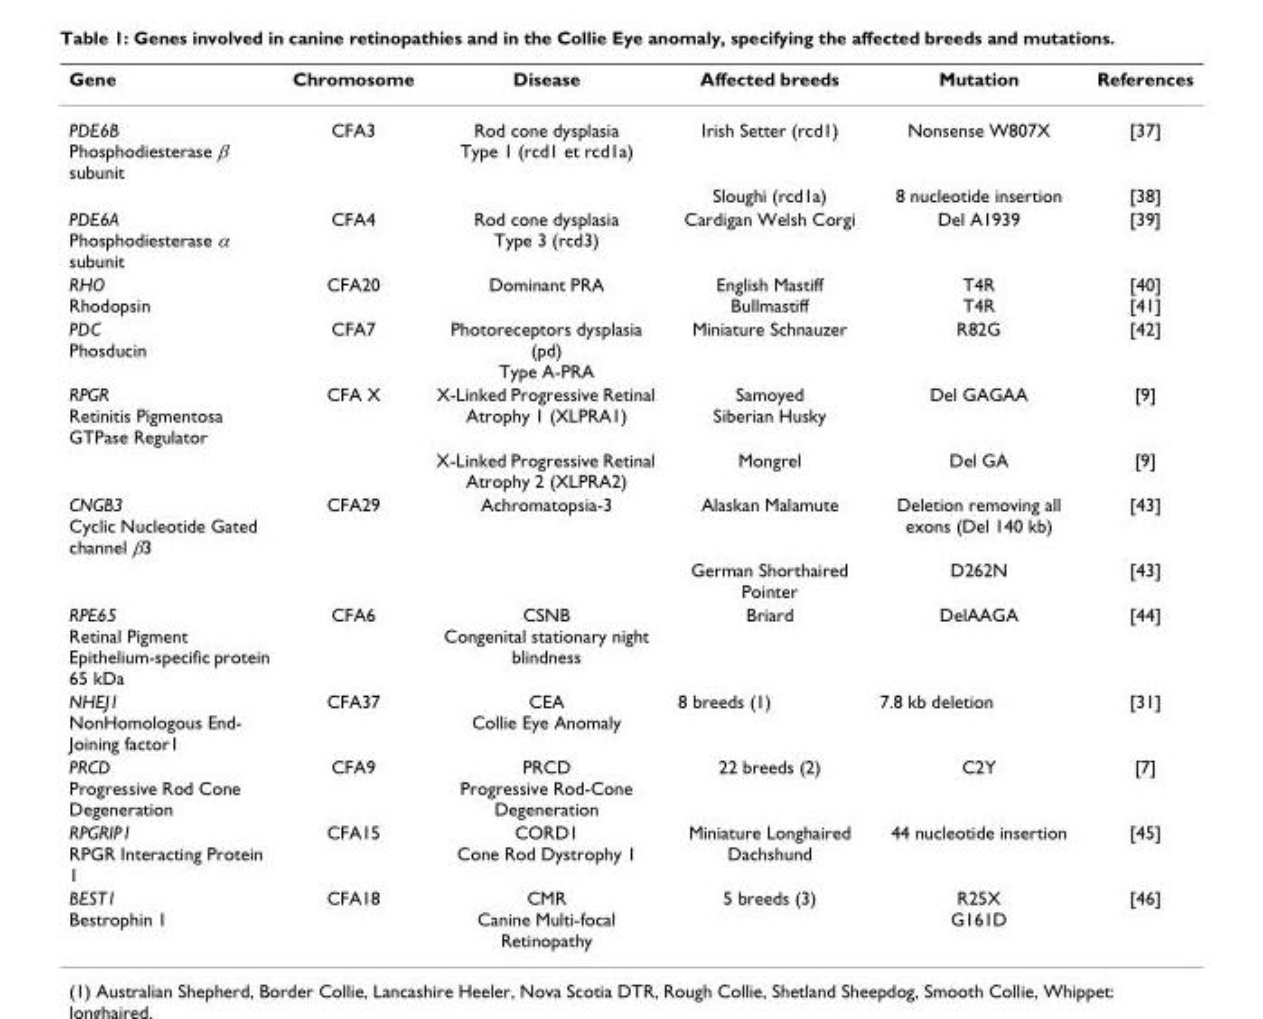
<table><thead><tr><td>Gene</td><td>Chromosome</td><td>Disease</td><td>Affected breeds</td><td>Mutation</td><td>References</td></tr></thead><tbody><tr><td rowspan="2">PDE6B Phosphodiesterase β subunit</td><td>CFA3</td><td>Rod cone dysplasia Type 1 (rcd1 et rcd1a)</td><td>Irish Setter (rcd1)</td><td>Nonsense W807X</td><td>[37]</td></tr><tr><td></td><td></td><td>Sloughi (rcd1a)</td><td>8 nucleotide insertion</td><td>[38]</td></tr><tr><td>PDE6A Phosphodiesterase α subunit</td><td>CFA4</td><td>Rod cone dysplasia Type 3 (rcd3)</td><td>Cardigan Welsh Corgi</td><td>Del A1939</td><td>[39]</td></tr><tr><td>RHO Rhodopsin</td><td>CFA20</td><td>Dominant PRA</td><td>English Mastiff Bullmastiff</td><td>T4R T4R</td><td>[40] [41]</td></tr><tr><td>PDC Phosducin</td><td>CFA7</td><td>Photoreceptors dysplasia (pd) Type A-PRA</td><td>Miniature Schnauzer</td><td>R82G</td><td>[42]</td></tr><tr><td rowspan="2">RPGR Retinitis Pigmentosa GTPase Regulator</td><td>CFA X</td><td>X-Linked Progressive Retinal Atrophy 1 (XLPRA1)</td><td>Samoyed Siberian Husky</td><td>Del GAGAA</td><td>[9]</td></tr><tr><td></td><td>X-Linked Progressive Retinal Atrophy 2 (XLPRA2)</td><td>Mongrel</td><td>Del GA</td><td>[9]</td></tr><tr><td rowspan="2">CNGB3 Cyclic Nucleotide Gated channel β3</td><td>CFA29</td><td>Achromatopsia-3</td><td>Alaskan Malamute</td><td>Deletion removing all exons (Del 140 kb)</td><td>[43]</td></tr><tr><td></td><td></td><td>German Shorthaired Pointer</td><td>D262N</td><td>[43]</td></tr><tr><td>RPE65 Retinal Pigment Epithelium-specific protein 65 kDa</td><td>CFA6</td><td>CSNB Congenital stationary night blindness</td><td>Briard</td><td>DelAAGA</td><td>[44]</td></tr><tr><td>NHEJ1 NonHomologous End- Joining factor1</td><td>CFA37</td><td>CEA Collie Eye Anomaly</td><td>8 breeds (1)</td><td>7.8 kb deletion</td><td>[31]</td></tr><tr><td>PRCD Progressive Rod Cone Degeneration</td><td>CFA9</td><td>PRCD Progressive Rod-Cone Degeneration</td><td>22 breeds (2)</td><td>C2Y</td><td>[7]</td></tr><tr><td>RPGRIP1 RPGR Interacting Protein 1</td><td>CFA15</td><td>CORD1 Cone Rod Dystrophy 1</td><td>Miniature Longhaired Dachshund</td><td>44 nucleotide insertion</td><td>[45]</td></tr><tr><td>BEST1 Bestrophin 1</td><td>CFA18</td><td>CMR Canine Multi-focal Retinopathy</td><td>5 breeds (3)</td><td>R25X G161D</td><td>[46]</td></tr></tbody></table>